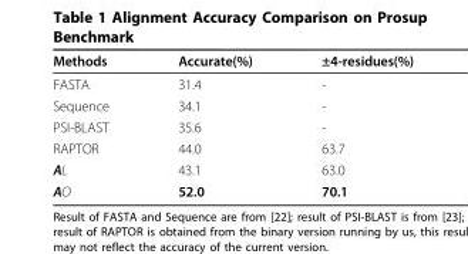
<table><thead><tr><td>Methods</td><td>Accurate(%)</td><td>±4-residues(%)</td></tr></thead><tbody><tr><td>FASTA</td><td>31.4</td><td>-</td></tr><tr><td>Sequence</td><td>34.1</td><td>-</td></tr><tr><td>PSI-BLAST</td><td>35.6</td><td>-</td></tr><tr><td>RAPTOR</td><td>44.0</td><td>63.7</td></tr><tr><td>AL</td><td>43.1</td><td>63.0</td></tr><tr><td>AO</td><td>52.0</td><td>70.1</td></tr></tbody></table>